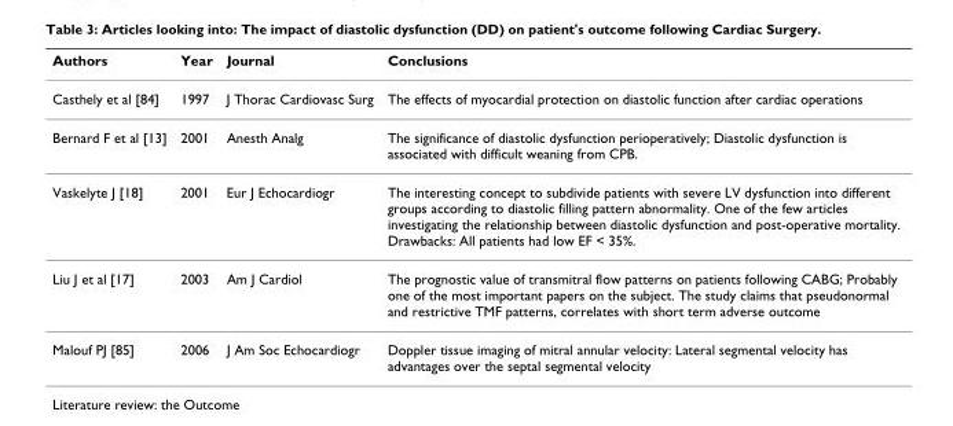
<table><thead><tr><td>Authors</td><td>Year</td><td>Journal</td><td>Conclusions</td></tr></thead><tbody><tr><td>Casthely et al [84]</td><td>1997</td><td>J Thorac Cardiovasc Surg</td><td>The effects of myocardial protection on diastolic function after cardiac operations</td></tr><tr><td>Bernard F et al [13]</td><td>2001</td><td>Anesth Analg</td><td>The significance of diastolic dysfunction perioperatively; Diastolic dysfunction is associated with difficult weaning from CPB.</td></tr><tr><td>Vaskelyte J [18]</td><td>2001</td><td>Eur J Echocardiogr</td><td>The interesting concept to subdivide patients with severe LV dysfunction into different groups according to diastolic filling pattern abnormality. One of the few articles investigating the relationship between diastolic dysfunction and post-operative mortality. Drawbacks: All patients had low EF &lt; 35%.</td></tr><tr><td>Liu J et al [17]</td><td>2003</td><td>Am J Cardiol</td><td>The prognostic value of transmitral flow patterns on patients following CABG; Probably one of the most important papers on the subject. The study claims that pseudonormal and restrictive TMF patterns, correlates with short term adverse outcome</td></tr><tr><td>Malouf PJ [85]</td><td>2006</td><td>J Am Soc Echocardiogr</td><td>Doppler tissue imaging of mitral annular velocity: Lateral segmental velocity has advantages over the septal segmental velocity</td></tr></tbody></table>